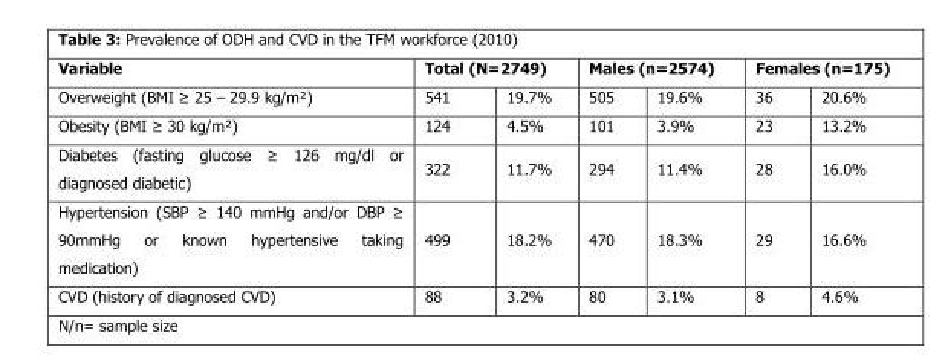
<table><thead><tr><td rowspan="2">Variable Overweight (BMI ≥ 25 – 29.9 kg/m²)</td><td colspan="2">Total (N=2749)</td><td colspan="2">Males (n=2574)</td><td colspan="2">Females (n=175)</td></tr><tr><td>541</td><td>19.7%</td><td>505</td><td>19.6%</td><td>36</td><td>20.6%</td></tr></thead><tbody><tr><td>Obesity (BMI ≥ 30 kg/m²)</td><td>124</td><td>4.5%</td><td>101</td><td>3.9%</td><td>23</td><td>13.2%</td></tr><tr><td>Diabetes (fasting glucose ≥ 126 mg/dl or diagnosed diabetic)</td><td>322</td><td>11.7%</td><td>294</td><td>11.4%</td><td>28</td><td>16.0%</td></tr><tr><td>Hypertension (SBP ≥ 140 mmHg and/or DBP ≥ 90mmHg or known hypertensive taking medication)</td><td>499</td><td>18.2%</td><td>470</td><td>18.3%</td><td>29</td><td>16.6%</td></tr><tr><td>CVD (history of diagnosed CVD)</td><td>88</td><td>3.2%</td><td>80</td><td>3.1%</td><td>8</td><td>4.6%</td></tr></tbody></table>